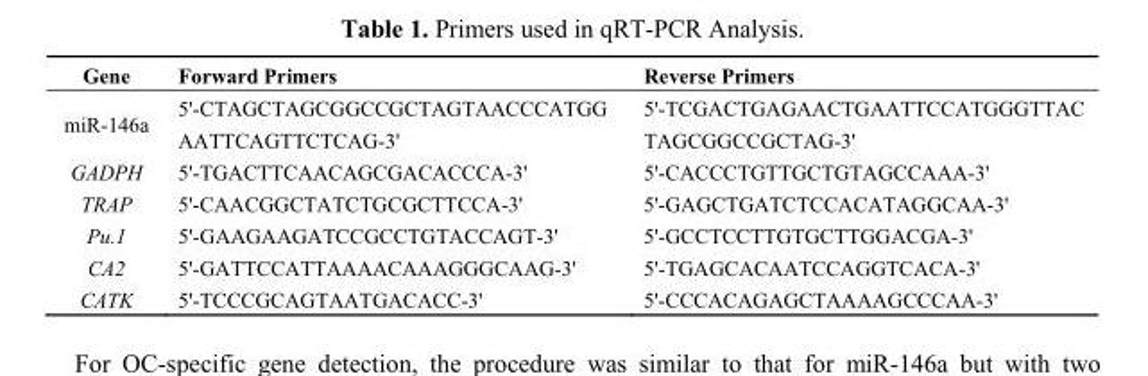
<table><thead><tr><td>Gene</td><td>Forward Primers</td><td>Reverse Primers</td></tr></thead><tbody><tr><td>miR-146a</td><td>5&#x27;-CTAGCTAGCGGCCGCTAGTAACCCATGG AATTCAGTTCTCAG-3&#x27;</td><td>5&#x27;-TCGACTGAGAACTGAATTCCATGGGTTAC TAGCGGCCGCTAG-3&#x27;</td></tr><tr><td>GADPH</td><td>5&#x27;-TGACTTCAACAGCGACACCCA-3&#x27;</td><td>5&#x27;-CACCCTGTTGCTGTAGCCAAA-3&#x27;</td></tr><tr><td>TRAP</td><td>5&#x27;-CAACGGCTATCTGCGCTTCCA-3&#x27;</td><td>5&#x27;-GAGCTGATCTCCACATAGGCAA-3&#x27;</td></tr><tr><td>Pu.1</td><td>5&#x27;-GAAGAAGATCCGCCTGTACCAGT-3&#x27;</td><td>5&#x27;-GCCTCCTTGTGCTTGGACGA-3&#x27;</td></tr><tr><td>CA2</td><td>5&#x27;-GATTCCATTAAAACAAAGGGCAAG-3&#x27;</td><td>5&#x27;-TGAGCACAATCCAGGTCACA-3&#x27;</td></tr><tr><td>CATK</td><td>5&#x27;-TCCCGCAGTAATGACACC-3&#x27;</td><td>5&#x27;-CCCACAGAGCTAAAAGCCCAA-3&#x27;</td></tr></tbody></table>